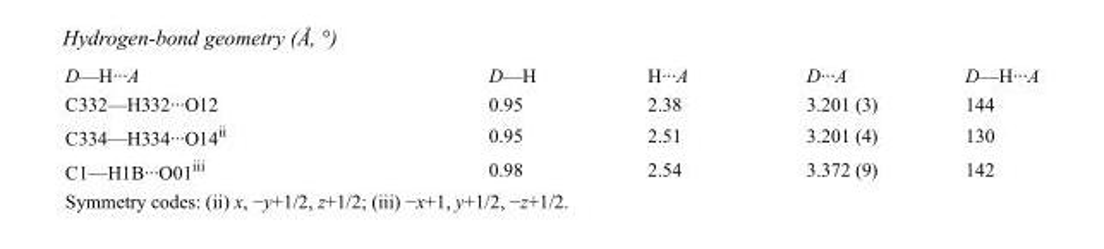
<table><tbody><tr><td>D—H···A</td><td>D—H</td><td>H···A</td><td>D···A</td><td>D—H···A</td></tr><tr><td>C332—H332···O12</td><td>0.95</td><td>2.38</td><td>3.201 (3)</td><td>144</td></tr><tr><td>C334—H334···O14<sup>ii</sup></td><td>0.95</td><td>2.51</td><td>3.201 (4)</td><td>130</td></tr><tr><td>C1—H1B···O01<sup>iii</sup></td><td>0.98</td><td>2.54</td><td>3.372 (9)</td><td>142</td></tr></tbody></table>